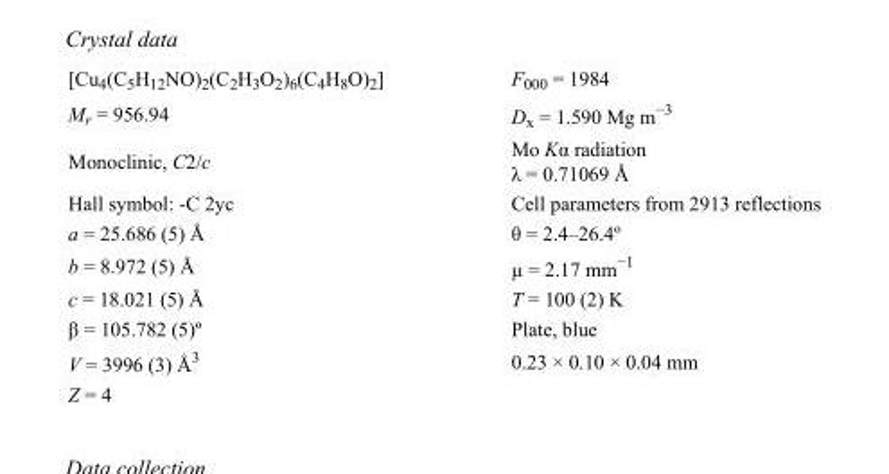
<table><tbody><tr><td>[Cu<sub>4</sub>(C<sub>5</sub>H<sub>12</sub>NO)<sub>2</sub>(C<sub>2</sub>H<sub>3</sub>O<sub>2</sub>)<sub>6</sub>(C<sub>4</sub>H<sub>8</sub>O)<sub>2</sub>]</td><td>F<sub>000</sub> = 1984</td></tr><tr><td>M<sub>r</sub> = 956.94</td><td>D<sub>x</sub> = 1.590 Mg m<sup>−3</sup></td></tr><tr><td>Monoclinic, C2/c</td><td>Mo Kα radiation λ = 0.71069 Å</td></tr><tr><td>Hall symbol: -C 2yc</td><td>Cell parameters from 2913 reflections</td></tr><tr><td>a = 25.686 (5) Å</td><td>θ = 2.4–26.4º</td></tr><tr><td>b = 8.972 (5) Å</td><td>µ = 2.17 mm<sup>−1</sup></td></tr><tr><td>c = 18.021 (5) Å</td><td>T = 100 (2) K</td></tr><tr><td>β = 105.782 (5)º</td><td>Plate, blue</td></tr><tr><td>V = 3996 (3) Å<sup>3</sup></td><td>0.23 × 0.10 × 0.04 mm</td></tr><tr><td>Z = 4</td><td></td></tr></tbody></table>